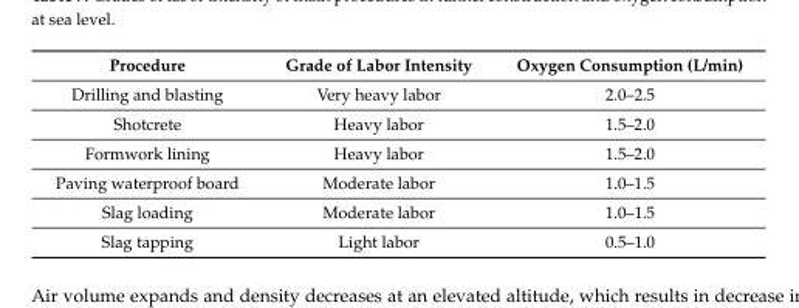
<table><thead><tr><td>Procedure</td><td>Grade of Labor Intensity</td><td>Oxygen Consumption (L/min)</td></tr></thead><tbody><tr><td>Drilling and blasting</td><td>Very heavy labor</td><td>2.0–2.5</td></tr><tr><td>Shotcrete</td><td>Heavy labor</td><td>1.5–2.0</td></tr><tr><td>Formwork lining</td><td>Heavy labor</td><td>1.5–2.0</td></tr><tr><td>Paving waterproof board</td><td>Moderate labor</td><td>1.0–1.5</td></tr><tr><td>Slag loading</td><td>Moderate labor</td><td>1.0–1.5</td></tr><tr><td>Slag tapping</td><td>Light labor</td><td>0.5–1.0</td></tr></tbody></table>